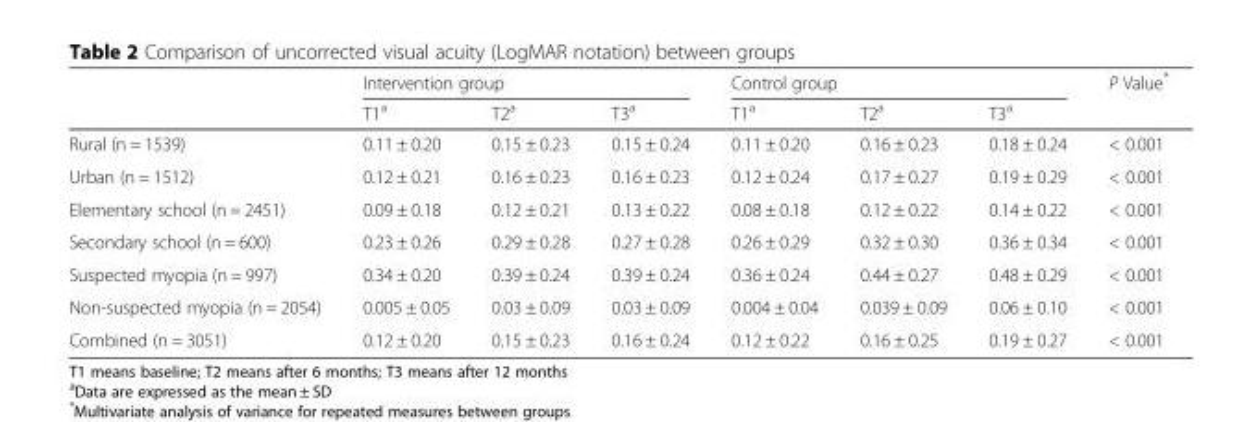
<table><thead><tr><td rowspan="2"></td><td colspan="3">Intervention group</td><td colspan="3">Control group</td><td rowspan="2">P Value*</td></tr><tr><td>T1<sup>a</sup></td><td>T2<sup>a</sup></td><td>T3<sup>a</sup></td><td>T1<sup>a</sup></td><td>T2<sup>a</sup></td><td>T3<sup>a</sup></td></tr></thead><tbody><tr><td>Rural (n = 1539)</td><td>0.11 ± 0.20</td><td>0.15 ± 0.23</td><td>0.15 ± 0.24</td><td>0.11 ± 0.20</td><td>0.16 ± 0.23</td><td>0.18 ± 0.24</td><td>&lt; 0.001</td></tr><tr><td>Urban (n = 1512)</td><td>0.12 ± 0.21</td><td>0.16 ± 0.23</td><td>0.16 ± 0.23</td><td>0.12 ± 0.24</td><td>0.17 ± 0.27</td><td>0.19 ± 0.29</td><td>&lt; 0.001</td></tr><tr><td>Elementary school (n = 2451)</td><td>0.09 ± 0.18</td><td>0.12 ± 0.21</td><td>0.13 ± 0.22</td><td>0.08 ± 0.18</td><td>0.12 ± 0.22</td><td>0.14 ± 0.22</td><td>&lt; 0.001</td></tr><tr><td>Secondary school (n = 600)</td><td>0.23 ± 0.26</td><td>0.29 ± 0.28</td><td>0.27 ± 0.28</td><td>0.26 ± 0.29</td><td>0.32 ± 0.30</td><td>0.36 ± 0.34</td><td>&lt; 0.001</td></tr><tr><td>Suspected myopia (n = 997)</td><td>0.34 ± 0.20</td><td>0.39 ± 0.24</td><td>0.39 ± 0.24</td><td>0.36 ± 0.24</td><td>0.44 ± 0.27</td><td>0.48 ± 0.29</td><td>&lt; 0.001</td></tr><tr><td>Non-suspected myopia (n = 2054)</td><td>0.005 ± 0.05</td><td>0.03 ± 0.09</td><td>0.03 ± 0.09</td><td>0.004 ± 0.04</td><td>0.039 ± 0.09</td><td>0.06 ± 0.10</td><td>&lt; 0.001</td></tr><tr><td>Combined (n = 3051)</td><td>0.12 ± 0.20</td><td>0.15 ± 0.23</td><td>0.16 ± 0.24</td><td>0.12 ± 0.22</td><td>0.16 ± 0.25</td><td>0.19 ± 0.27</td><td>&lt; 0.001</td></tr></tbody></table>